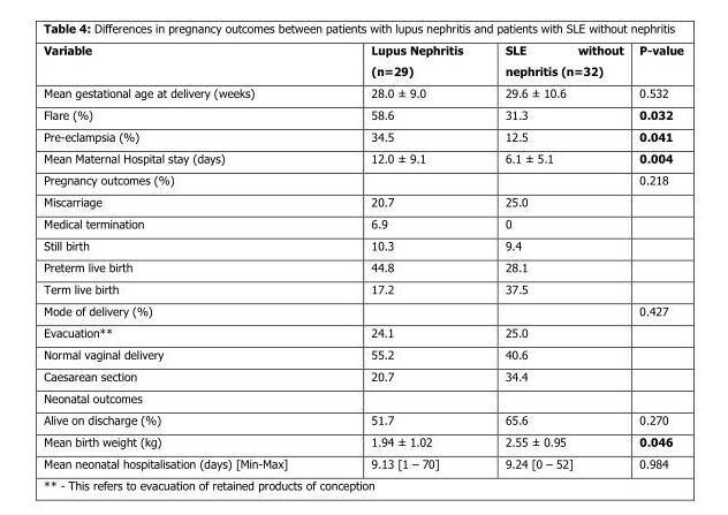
<table><thead><tr><td>Variable</td><td>Lupus Nephritis (n=29)</td><td>SLE without nephritis (n=32)</td><td>P-value</td></tr></thead><tbody><tr><td>Mean gestational age at delivery (weeks)</td><td>28.0 ± 9.0</td><td>29.6 ± 10.6</td><td>0.532</td></tr><tr><td>Flare (%)</td><td>58.6</td><td>31.3</td><td>0.032</td></tr><tr><td>Pre-eclampsia (%)</td><td>34.5</td><td>12.5</td><td>0.041</td></tr><tr><td>Mean Maternal Hospital stay (days)</td><td>12.0 ± 9.1</td><td>6.1 ± 5.1</td><td>0.004</td></tr><tr><td>Pregnancy outcomes (%)</td><td></td><td></td><td>0.218</td></tr><tr><td>Miscarriage</td><td>20.7</td><td>25.0</td><td></td></tr><tr><td>Medical termination</td><td>6.9</td><td>0</td><td></td></tr><tr><td>Still birth</td><td>10.3</td><td>9.4</td><td></td></tr><tr><td>Preterm live birth</td><td>44.8</td><td>28.1</td><td></td></tr><tr><td>Term live birth</td><td>17.2</td><td>37.5</td><td></td></tr><tr><td>Mode of delivery (%)</td><td></td><td></td><td>0.427</td></tr><tr><td>Evacuation**</td><td>24.1</td><td>25.0</td><td></td></tr><tr><td>Normal vaginal delivery</td><td>55.2</td><td>40.6</td><td></td></tr><tr><td>Caesarean section</td><td>20.7</td><td>34.4</td><td></td></tr><tr><td colspan="4">Neonatal outcomes</td></tr><tr><td>Alive on discharge (%)</td><td>51.7</td><td>65.6</td><td>0.270</td></tr><tr><td>Mean birth weight (kg)</td><td>1.94 ± 1.02</td><td>2.55 ± 0.95</td><td>0.046</td></tr><tr><td>Mean neonatal hospitalisation (days) [Min-Max]</td><td>9.13 [1 – 70]</td><td>9.24 [0 – 52]</td><td>0.984</td></tr></tbody></table>